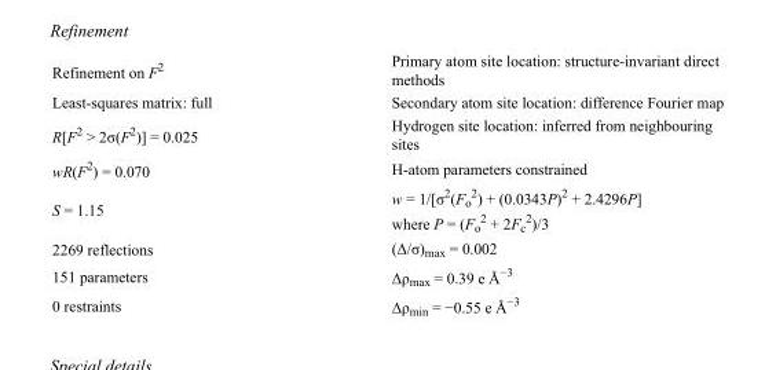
<table><tbody><tr><td>Refinement on F<sup>2</sup></td><td>Primary atom site location: structure-invariant direct methods</td></tr><tr><td>Least-squares matrix: full</td><td>Secondary atom site location: difference Fourier map</td></tr><tr><td>R[F<sup>2</sup> &gt; 2σ(F<sup>2</sup>)] = 0.025</td><td>Hydrogen site location: inferred from neighbouring sites</td></tr><tr><td>wR(F<sup>2</sup>) = 0.070</td><td>H-atom parameters constrained</td></tr><tr><td>S = 1.15</td><td>w = 1/[σ<sup>2</sup>(F<sub>o</sub> <sup>2</sup>) + (0.0343P)<sup>2</sup> + 2.4296P] where P = (F<sub>o</sub> <sup>2</sup> + 2F<sub>c</sub> <sup>2</sup>)/3</td></tr><tr><td>2269 reflections</td><td>(Δ/σ)<sub>max</sub> = 0.002</td></tr><tr><td>151 parameters</td><td>Δρ<sub>max</sub> = 0.39 e Å<sup>−3</sup></td></tr><tr><td>0 restraints</td><td>Δρ<sub>min</sub> = −0.55 e Å<sup>−3</sup></td></tr></tbody></table>